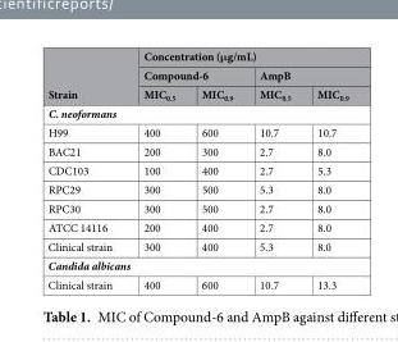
<table><thead><tr><td rowspan="3">Strain</td><td colspan="4">Concentration (μg/mL)</td></tr><tr><td colspan="2">Compound-6</td><td colspan="2">AmpB</td></tr><tr><td>MIC<sub>0.5</sub></td><td>MIC<sub>0.9</sub></td><td>MIC<sub>0.5</sub></td><td>MIC<sub>0.9</sub></td></tr></thead><tbody><tr><td colspan="5">C. neoformans</td></tr><tr><td>H99</td><td>400</td><td>600</td><td>10.7</td><td>10.7</td></tr><tr><td>BAC21</td><td>200</td><td>300</td><td>2.7</td><td>8.0</td></tr><tr><td>CDC103</td><td>100</td><td>400</td><td>2.7</td><td>5.3</td></tr><tr><td>RPC29</td><td>300</td><td>500</td><td>5.3</td><td>8.0</td></tr><tr><td>RPC30</td><td>300</td><td>500</td><td>2.7</td><td>8.0</td></tr><tr><td>ATCC 14116</td><td>200</td><td>400</td><td>2.7</td><td>8.0</td></tr><tr><td>Clinical strain</td><td>300</td><td>400</td><td>5.3</td><td>8.0</td></tr><tr><td colspan="5">Candida albicans</td></tr><tr><td>Clinical strain</td><td>400</td><td>600</td><td>10.7</td><td>13.3</td></tr></tbody></table>